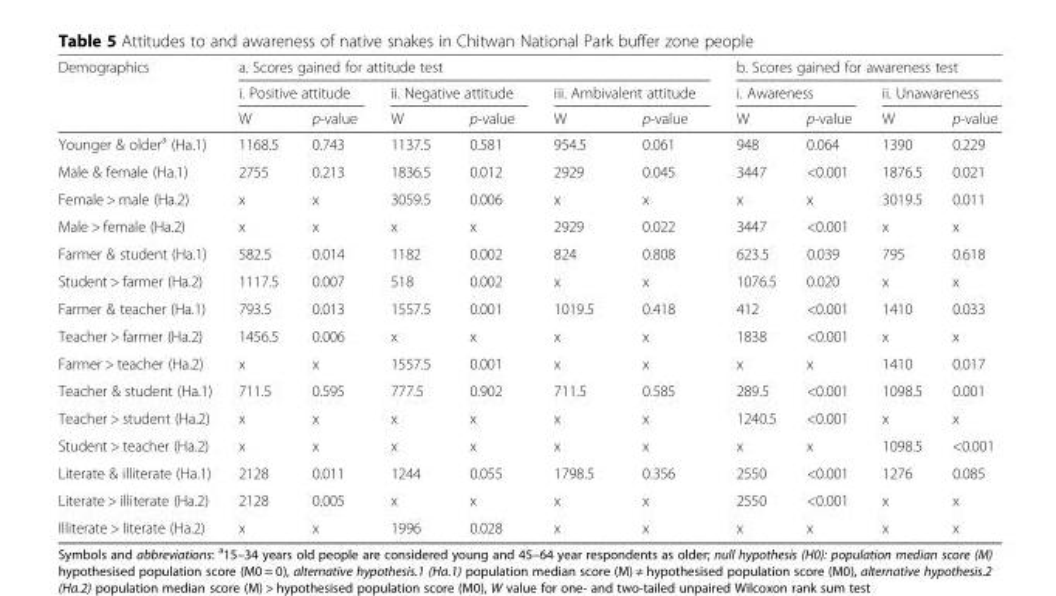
<table><thead><tr><td rowspan="3">Demographics</td><td colspan="6">a. Scores gained for attitude test</td><td colspan="4">b. Scores gained for awareness test</td></tr><tr><td colspan="2">i. Positive attitude</td><td colspan="2">ii. Negative attitude</td><td colspan="2">iii. Ambivalent attitude</td><td colspan="2">i. Awareness</td><td colspan="2">ii. Unawareness</td></tr><tr><td>W</td><td>p-value</td><td>W</td><td>p-value</td><td>W</td><td>p-value</td><td>W</td><td>p-value</td><td>W</td><td>p-value</td></tr></thead><tbody><tr><td>Younger &amp; older<sup>a</sup> (Ha.1)</td><td>1168.5</td><td>0.743</td><td>1137.5</td><td>0.581</td><td>954.5</td><td>0.061</td><td>948</td><td>0.064</td><td>1390</td><td>0.229</td></tr><tr><td>Male &amp; female (Ha.1)</td><td>2755</td><td>0.213</td><td>1836.5</td><td>0.012</td><td>2929</td><td>0.045</td><td>3447</td><td>&lt;0.001</td><td>1876.5</td><td>0.021</td></tr><tr><td>Female &gt; male (Ha.2)</td><td>x</td><td>x</td><td>3059.5</td><td>0.006</td><td>x</td><td>x</td><td>x</td><td>x</td><td>3019.5</td><td>0.011</td></tr><tr><td>Male &gt; female (Ha.2)</td><td>x</td><td>x</td><td>x</td><td>x</td><td>2929</td><td>0.022</td><td>3447</td><td>&lt;0.001</td><td>x</td><td>x</td></tr><tr><td>Farmer &amp; student (Ha.1)</td><td>582.5</td><td>0.014</td><td>1182</td><td>0.002</td><td>824</td><td>0.808</td><td>623.5</td><td>0.039</td><td>795</td><td>0.618</td></tr><tr><td>Student &gt; farmer (Ha.2)</td><td>1117.5</td><td>0.007</td><td>518</td><td>0.002</td><td>x</td><td>x</td><td>1076.5</td><td>0.020</td><td>x</td><td>x</td></tr><tr><td>Farmer &amp; teacher (Ha.1)</td><td>793.5</td><td>0.013</td><td>1557.5</td><td>0.001</td><td>1019.5</td><td>0.418</td><td>412</td><td>&lt;0.001</td><td>1410</td><td>0.033</td></tr><tr><td>Teacher &gt; farmer (Ha.2)</td><td>1456.5</td><td>0.006</td><td>x</td><td>x</td><td>x</td><td>x</td><td>1838</td><td>&lt;0.001</td><td>x</td><td>x</td></tr><tr><td>Farmer &gt; teacher (Ha.2)</td><td>x</td><td>x</td><td>1557.5</td><td>0.001</td><td>x</td><td>x</td><td>x</td><td>x</td><td>1410</td><td>0.017</td></tr><tr><td>Teacher &amp; student (Ha.1)</td><td>711.5</td><td>0.595</td><td>777.5</td><td>0.902</td><td>711.5</td><td>0.585</td><td>289.5</td><td>&lt;0.001</td><td>1098.5</td><td>0.001</td></tr><tr><td>Teacher &gt; student (Ha.2)</td><td>x</td><td>x</td><td>x</td><td>x</td><td>x</td><td>x</td><td>1240.5</td><td>&lt;0.001</td><td>x</td><td>x</td></tr><tr><td>Student &gt; teacher (Ha.2)</td><td>x</td><td>x</td><td>x</td><td>x</td><td>x</td><td>x</td><td>x</td><td>x</td><td>1098.5</td><td>&lt;0.001</td></tr><tr><td>Literate &amp; illiterate (Ha.1)</td><td>2128</td><td>0.011</td><td>1244</td><td>0.055</td><td>1798.5</td><td>0.356</td><td>2550</td><td>&lt;0.001</td><td>1276</td><td>0.085</td></tr><tr><td>Literate &gt; illiterate (Ha.2)</td><td>2128</td><td>0.005</td><td>x</td><td>x</td><td>x</td><td>x</td><td>2550</td><td>&lt;0.001</td><td>x</td><td>x</td></tr><tr><td>Illiterate &gt; literate (Ha.2)</td><td>x</td><td>x</td><td>1996</td><td>0.028</td><td>x</td><td>x</td><td>x</td><td>x</td><td>x</td><td>x</td></tr></tbody></table>